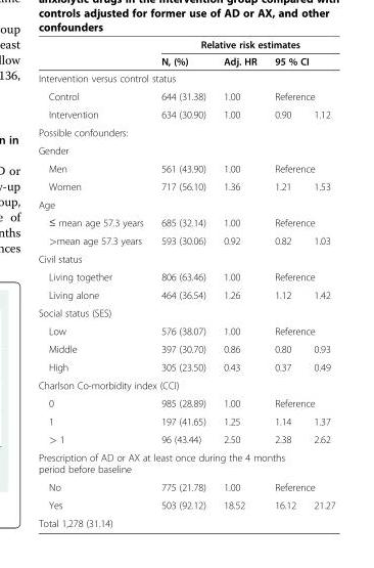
<table><thead><tr><td rowspan="2"></td><td colspan="4">Relative risk estimates</td></tr><tr><td>N, (%)</td><td>Adj. HR</td><td colspan="2">95 % CI</td></tr><tr><td colspan="5">Intervention versus control status</td></tr><tr><td rowspan="2">Control Intervention</td><td rowspan="2">644 (31.38) 634 (30.90)</td><td rowspan="2">1.00 1.00</td><td colspan="2">Reference</td></tr><tr><td>0.90</td><td>1.12</td></tr></thead><tbody><tr><td colspan="5">Possible confounders:</td></tr><tr><td colspan="5">Gender</td></tr><tr><td>Men</td><td>561 (43.90)</td><td>1.00</td><td colspan="2">Reference</td></tr><tr><td>Women</td><td>717 (56.10)</td><td>1.36</td><td>1.21</td><td>1.53</td></tr><tr><td colspan="5">Age</td></tr><tr><td>≤ mean age 57.3 years</td><td>685 (32.14)</td><td>1.00</td><td colspan="2">Reference</td></tr><tr><td>&gt;mean age 57.3 years</td><td>593 (30.06)</td><td>0.92</td><td>0.82</td><td>1.03</td></tr><tr><td colspan="5">Civil status</td></tr><tr><td>Living together</td><td>806 (63.46)</td><td>1.00</td><td colspan="2">Reference</td></tr><tr><td>Living alone</td><td>464 (36.54)</td><td>1.26</td><td>1.12</td><td>1.42</td></tr><tr><td colspan="5">Social status (SES)</td></tr><tr><td>Low</td><td>576 (38.07)</td><td>1.00</td><td colspan="2">Reference</td></tr><tr><td>Middle</td><td>397 (30.70)</td><td>0.86</td><td>0.80</td><td>0.93</td></tr><tr><td>High</td><td>305 (23.50)</td><td>0.43</td><td>0.37</td><td>0.49</td></tr><tr><td colspan="5">Charlson Co-morbidity index (CCI)</td></tr><tr><td>0</td><td>985 (28.89)</td><td>1.00</td><td colspan="2">Reference</td></tr><tr><td>1</td><td>197 (41.65)</td><td>1.25</td><td>1.14</td><td>1.37</td></tr><tr><td>&gt; 1</td><td>96 (43.44)</td><td>2.50</td><td>2.38</td><td>2.62</td></tr><tr><td colspan="5">Prescription of AD or AX at least once during the 4 months period before baseline</td></tr><tr><td>No</td><td>775 (21.78)</td><td>1.00</td><td colspan="2">Reference</td></tr><tr><td>Yes</td><td>503 (92.12)</td><td>18.52</td><td>16.12</td><td>21.27</td></tr><tr><td colspan="5">Total 1,278 (31.14)</td></tr></tbody></table>